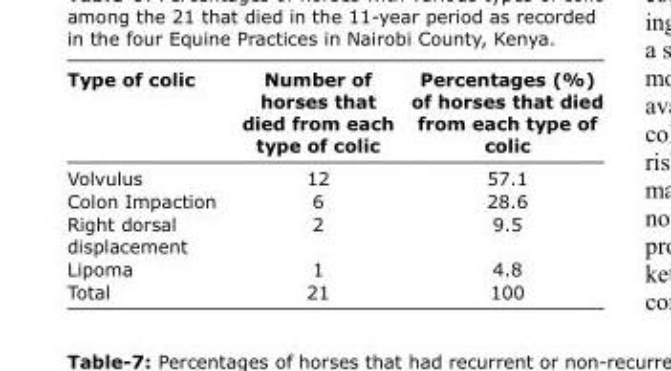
<table><thead><tr><td>Type of colic</td><td>Number of horses that died from each type of colic</td><td>Percentages (%) of horses that died from each type of colic</td></tr></thead><tbody><tr><td>Volvulus</td><td>12</td><td>57.1</td></tr><tr><td>Colon Impaction</td><td>6</td><td>28.6</td></tr><tr><td>Right dorsal displacement</td><td>2</td><td>9.5</td></tr><tr><td>Lipoma</td><td>1</td><td>4.8</td></tr><tr><td>Total</td><td>21</td><td>100</td></tr></tbody></table>